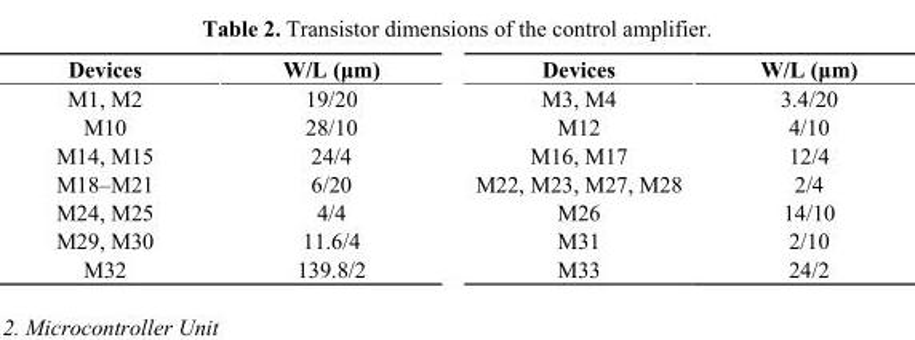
<table><thead><tr><td>Devices</td><td>W/L (μm)</td><td>Devices</td><td>W/L (μm)</td></tr></thead><tbody><tr><td>M1, M2</td><td>19/20</td><td>M3, M4</td><td>3.4/20</td></tr><tr><td>M10</td><td>28/10</td><td>M12</td><td>4/10</td></tr><tr><td>M14, M15</td><td>24/4</td><td>M16, M17</td><td>12/4</td></tr><tr><td>M18–M21</td><td>6/20</td><td>M22, M23, M27, M28</td><td>2/4</td></tr><tr><td>M24, M25</td><td>4/4</td><td>M26</td><td>14/10</td></tr><tr><td>M29, M30</td><td>11.6/4</td><td>M31</td><td>2/10</td></tr><tr><td>M32</td><td>139.8/2</td><td>M33</td><td>24/2</td></tr></tbody></table>